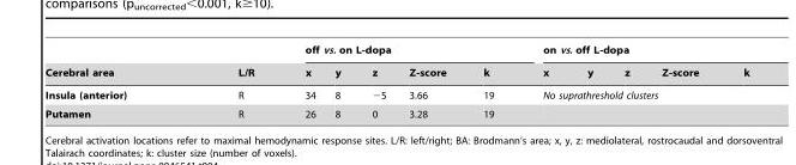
<table><thead><tr><td rowspan="2">Cerebral area</td><td rowspan="2">L/R</td><td colspan="5">off vs. on L-dopa</td><td colspan="5">on vs. off L-dopa</td></tr><tr><td>x</td><td>y</td><td>z</td><td>Z-score</td><td>k</td><td>x</td><td>y</td><td>z</td><td>Z-score</td><td>k</td></tr></thead><tbody><tr><td>Insula (anterior)</td><td>R</td><td>34</td><td>8</td><td>−5</td><td>3.66</td><td>19</td><td colspan="5">No suprathreshold clusters</td></tr><tr><td>Putamen</td><td>R</td><td>26</td><td>8</td><td>0</td><td>3.28</td><td>19</td><td colspan="5"></td></tr></tbody></table>